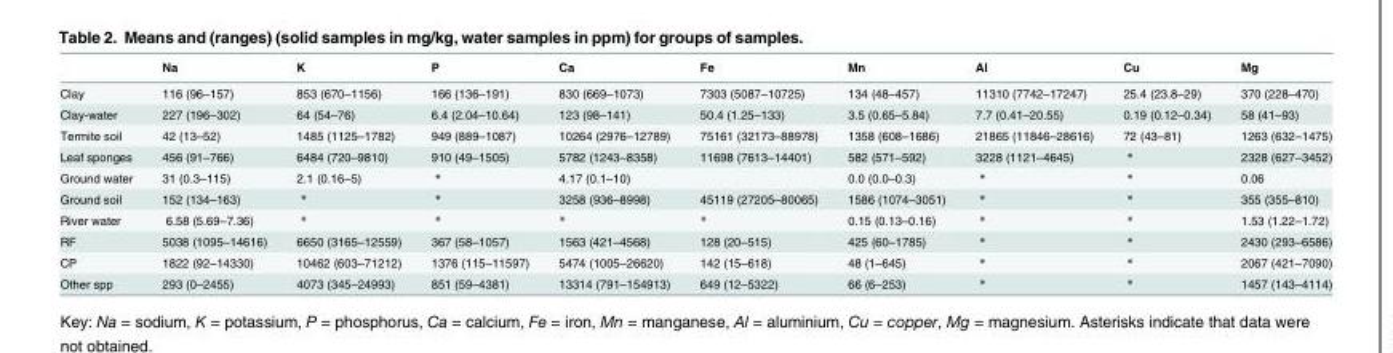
<table><thead><tr><td></td><td>Na</td><td>K</td><td>P</td><td>Ca</td><td>Fe</td><td>Mn</td><td>Al</td><td>Cu</td><td>Mg</td></tr></thead><tbody><tr><td>Clay</td><td>116 (96–157)</td><td>853 (670–1156)</td><td>166 (136–191)</td><td>830 (669–1073)</td><td>7303 (5087–10725)</td><td>134 (48–457)</td><td>11310 (7742–17247)</td><td>25.4 (23.8–29)</td><td>370 (228–470)</td></tr><tr><td>Clay-water</td><td>227 (196–302)</td><td>64 (54–76)</td><td>6.4 (2.04–10.64)</td><td>123 (98–141)</td><td>50.4 (1.25–133)</td><td>3.5 (0.65–5.84)</td><td>7.7 (0.41–20.55)</td><td>0.19 (0.12–0.34)</td><td>58 (41–93)</td></tr><tr><td>Termite soil</td><td>42 (13–52)</td><td>1485 (1125–1782)</td><td>949 (889–1087)</td><td>10264 (2976–12789)</td><td>75161 (32173–88978)</td><td>1358 (608–1686)</td><td>21865 (11846–28616)</td><td>72 (43–81)</td><td>1263 (632–1475)</td></tr><tr><td>Leaf sponges</td><td>456 (91–766)</td><td>6484 (720–9810)</td><td>910 (49–1505)</td><td>5782 (1243–8358)</td><td>11698 (7613–14401)</td><td>582 (571–592)</td><td>3228 (1121–4645)</td><td>*</td><td>2328 (627–3452)</td></tr><tr><td>Ground water</td><td>31 (0.3–115)</td><td>2.1 (0.16–5)</td><td>*</td><td>4.17 (0.1–10)</td><td></td><td>0.0 (0.0–0.3)</td><td>*</td><td>*</td><td>0.06</td></tr><tr><td>Ground soil</td><td>152 (134–163)</td><td>*</td><td>*</td><td>3258 (936–8998)</td><td>45119 (27205–80065)</td><td>1586 (1074–3051)</td><td>*</td><td>*</td><td>355 (355–810)</td></tr><tr><td>River water</td><td>6.58 (5.69–7.36)</td><td>*</td><td>*</td><td>*</td><td>*</td><td>0.15 (0.13–0.16)</td><td>*</td><td>*</td><td>1.53 (1.22–1.72)</td></tr><tr><td>RF</td><td>5038 (1095–14616)</td><td>6650 (3165–12559)</td><td>367 (58–1057)</td><td>1563 (421–4568)</td><td>128 (20–515)</td><td>425 (60–1785)</td><td>*</td><td>*</td><td>2430 (293–6586)</td></tr><tr><td>CP</td><td>1822 (92–14330)</td><td>10462 (603–71212)</td><td>1376 (115–11597)</td><td>5474 (1005–26620)</td><td>142 (15–618)</td><td>48 (1–645)</td><td>*</td><td>*</td><td>2067 (421–7090)</td></tr><tr><td>Other spp</td><td>293 (0–2455)</td><td>4073 (345–24993)</td><td>851 (59–4381)</td><td>13314 (791–154913)</td><td>649 (12–5322)</td><td>66 (6–253)</td><td>*</td><td>*</td><td>1457 (143–4114)</td></tr></tbody></table>